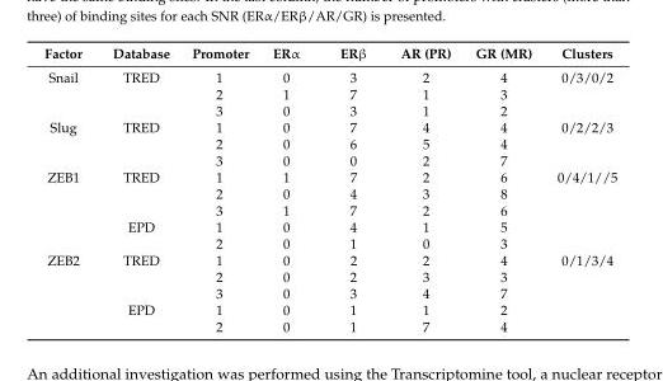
<table><thead><tr><td>Factor</td><td>Database</td><td>Promoter</td><td>ERα</td><td>ERβ</td><td>AR (PR)</td><td>GR (MR)</td><td>Clusters</td></tr></thead><tbody><tr><td rowspan="3">Snail</td><td>TRED</td><td>1</td><td>0</td><td>3</td><td>2</td><td>4</td><td>0/3/0/2</td></tr><tr><td></td><td>2</td><td>1</td><td>7</td><td>1</td><td>3</td><td></td></tr><tr><td></td><td>3</td><td>0</td><td>3</td><td>1</td><td>2</td><td></td></tr><tr><td rowspan="3">Slug</td><td>TRED</td><td>1</td><td>0</td><td>7</td><td>4</td><td>4</td><td>0/2/2/3</td></tr><tr><td></td><td>2</td><td>0</td><td>6</td><td>5</td><td>4</td><td></td></tr><tr><td></td><td>3</td><td>0</td><td>0</td><td>2</td><td>7</td><td></td></tr><tr><td rowspan="5">ZEB1</td><td>TRED</td><td>1</td><td>1</td><td>7</td><td>2</td><td>6</td><td>0/4/1//5</td></tr><tr><td></td><td>2</td><td>0</td><td>4</td><td>3</td><td>8</td><td></td></tr><tr><td></td><td>3</td><td>1</td><td>7</td><td>2</td><td>6</td><td></td></tr><tr><td>EPD</td><td>1</td><td>0</td><td>4</td><td>1</td><td>5</td><td></td></tr><tr><td></td><td>2</td><td>0</td><td>1</td><td>0</td><td>3</td><td></td></tr><tr><td rowspan="5">ZEB2</td><td>TRED</td><td>1</td><td>0</td><td>2</td><td>2</td><td>4</td><td>0/1/3/4</td></tr><tr><td></td><td>2</td><td>0</td><td>2</td><td>3</td><td>3</td><td></td></tr><tr><td></td><td>3</td><td>0</td><td>3</td><td>4</td><td>7</td><td></td></tr><tr><td>EPD</td><td>1</td><td>0</td><td>1</td><td>1</td><td>2</td><td></td></tr><tr><td></td><td>2</td><td>0</td><td>1</td><td>7</td><td>4</td><td></td></tr></tbody></table>